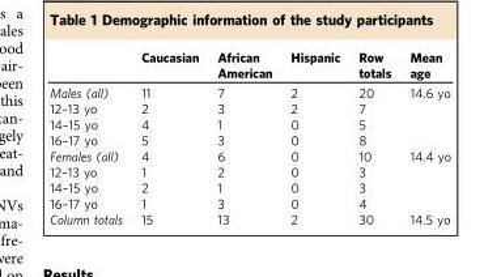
<table><thead><tr><td></td><td>Caucasian</td><td>African American</td><td>Hispanic</td><td>Row totals</td><td>Mean age</td></tr></thead><tbody><tr><td>Males (all)</td><td>11</td><td>7</td><td>2</td><td>20</td><td>14.6 yo</td></tr><tr><td>12–13 yo</td><td>2</td><td>3</td><td>2</td><td>7</td><td></td></tr><tr><td>14–15 yo</td><td>4</td><td>1</td><td>0</td><td>5</td><td></td></tr><tr><td>16–17 yo</td><td>5</td><td>3</td><td>0</td><td>8</td><td></td></tr><tr><td>Females (all)</td><td>4</td><td>6</td><td>0</td><td>10</td><td>14.4 yo</td></tr><tr><td>12–13 yo</td><td>1</td><td>2</td><td>0</td><td>3</td><td></td></tr><tr><td>14–15 yo</td><td>2</td><td>1</td><td>0</td><td>3</td><td></td></tr><tr><td>16–17 yo</td><td>1</td><td>3</td><td>0</td><td>4</td><td></td></tr><tr><td>Column totals</td><td>15</td><td>13</td><td>2</td><td>30</td><td>14.5 yo</td></tr></tbody></table>